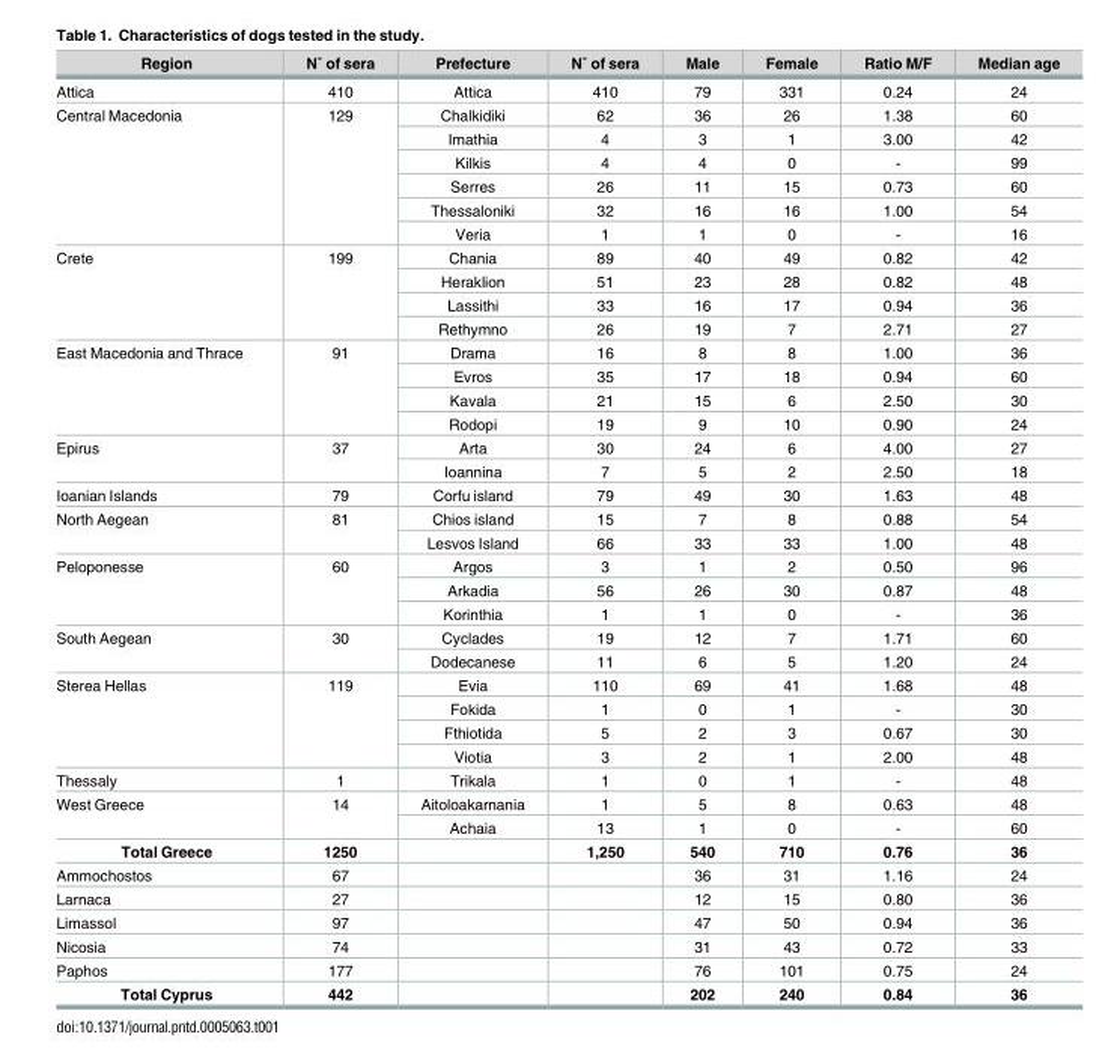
<table><thead><tr><td>Region</td><td>N˚ of sera</td><td>Prefecture</td><td>N˚ of sera</td><td>Male</td><td>Female</td><td>Ratio M/F</td><td>Median age</td></tr></thead><tbody><tr><td>Attica</td><td>410</td><td>Attica</td><td>410</td><td>79</td><td>331</td><td>0.24</td><td>24</td></tr><tr><td rowspan="6">Central Macedonia</td><td rowspan="6">129</td><td>Chalkidiki</td><td>62</td><td>36</td><td>26</td><td>1.38</td><td>60</td></tr><tr><td>Imathia</td><td>4</td><td>3</td><td>1</td><td>3.00</td><td>42</td></tr><tr><td>Kilkis</td><td>4</td><td>4</td><td>0</td><td>-</td><td>99</td></tr><tr><td>Serres</td><td>26</td><td>11</td><td>15</td><td>0.73</td><td>60</td></tr><tr><td>Thessaloniki</td><td>32</td><td>16</td><td>16</td><td>1.00</td><td>54</td></tr><tr><td>Veria</td><td>1</td><td>1</td><td>0</td><td>-</td><td>16</td></tr><tr><td rowspan="4">Crete</td><td rowspan="4">199</td><td>Chania</td><td>89</td><td>40</td><td>49</td><td>0.82</td><td>42</td></tr><tr><td>Heraklion</td><td>51</td><td>23</td><td>28</td><td>0.82</td><td>48</td></tr><tr><td>Lassithi</td><td>33</td><td>16</td><td>17</td><td>0.94</td><td>36</td></tr><tr><td>Rethymno</td><td>26</td><td>19</td><td>7</td><td>2.71</td><td>27</td></tr><tr><td rowspan="4">East Macedonia and Thrace</td><td rowspan="4">91</td><td>Drama</td><td>16</td><td>8</td><td>8</td><td>1.00</td><td>36</td></tr><tr><td>Evros</td><td>35</td><td>17</td><td>18</td><td>0.94</td><td>60</td></tr><tr><td>Kavala</td><td>21</td><td>15</td><td>6</td><td>2.50</td><td>30</td></tr><tr><td>Rodopi</td><td>19</td><td>9</td><td>10</td><td>0.90</td><td>24</td></tr><tr><td rowspan="2">Epirus</td><td rowspan="2">37</td><td>Arta</td><td>30</td><td>24</td><td>6</td><td>4.00</td><td>27</td></tr><tr><td>Ioannina</td><td>7</td><td>5</td><td>2</td><td>2.50</td><td>18</td></tr><tr><td>Ioanian Islands</td><td>79</td><td>Corfu island</td><td>79</td><td>49</td><td>30</td><td>1.63</td><td>48</td></tr><tr><td rowspan="2">North Aegean</td><td rowspan="2">81</td><td>Chios island</td><td>15</td><td>7</td><td>8</td><td>0.88</td><td>54</td></tr><tr><td>Lesvos Island</td><td>66</td><td>33</td><td>33</td><td>1.00</td><td>48</td></tr><tr><td rowspan="3">Peloponesse</td><td rowspan="3">60</td><td>Argos</td><td>3</td><td>1</td><td>2</td><td>0.50</td><td>96</td></tr><tr><td>Arkadia</td><td>56</td><td>26</td><td>30</td><td>0.87</td><td>48</td></tr><tr><td>Korinthia</td><td>1</td><td>1</td><td>0</td><td>-</td><td>36</td></tr><tr><td rowspan="2">South Aegean</td><td rowspan="2">30</td><td>Cyclades</td><td>19</td><td>12</td><td>7</td><td>1.71</td><td>60</td></tr><tr><td>Dodecanese</td><td>11</td><td>6</td><td>5</td><td>1.20</td><td>24</td></tr><tr><td rowspan="4">Sterea Hellas</td><td rowspan="4">119</td><td>Evia</td><td>110</td><td>69</td><td>41</td><td>1.68</td><td>48</td></tr><tr><td>Fokida</td><td>1</td><td>0</td><td>1</td><td>-</td><td>30</td></tr><tr><td>Fthiotida</td><td>5</td><td>2</td><td>3</td><td>0.67</td><td>30</td></tr><tr><td>Viotia</td><td>3</td><td>2</td><td>1</td><td>2.00</td><td>48</td></tr><tr><td>Thessaly</td><td>1</td><td>Trikala</td><td>1</td><td>0</td><td>1</td><td>-</td><td>48</td></tr><tr><td rowspan="2">West Greece</td><td rowspan="2">14</td><td>Aitoloakarnania</td><td>1</td><td>5</td><td>8</td><td>0.63</td><td>48</td></tr><tr><td>Achaia</td><td>13</td><td>1</td><td>0</td><td>-</td><td>60</td></tr><tr><td>Total Greece</td><td>1250</td><td></td><td>1,250</td><td>540</td><td>710</td><td>0.76</td><td>36</td></tr><tr><td>Ammochostos</td><td>67</td><td></td><td></td><td>36</td><td>31</td><td>1.16</td><td>24</td></tr><tr><td>Larnaca</td><td>27</td><td></td><td></td><td>12</td><td>15</td><td>0.80</td><td>36</td></tr><tr><td>Limassol</td><td>97</td><td></td><td></td><td>47</td><td>50</td><td>0.94</td><td>36</td></tr><tr><td>Nicosia</td><td>74</td><td></td><td></td><td>31</td><td>43</td><td>0.72</td><td>33</td></tr><tr><td>Paphos</td><td>177</td><td></td><td></td><td>76</td><td>101</td><td>0.75</td><td>24</td></tr><tr><td>Total Cyprus</td><td>442</td><td></td><td></td><td>202</td><td>240</td><td>0.84</td><td>36</td></tr></tbody></table>